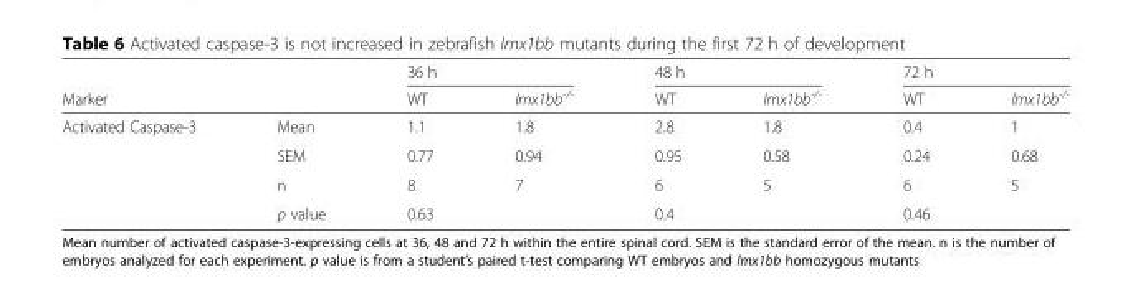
<table><thead><tr><td rowspan="2">Marker</td><td rowspan="2"></td><td colspan="2">36 h</td><td colspan="2">48 h</td><td colspan="2">72 h</td></tr><tr><td>WT</td><td>lmx1bb<sup>-/-</sup></td><td>WT</td><td>lmx1bb<sup>-/-</sup></td><td>WT</td><td>lmx1bb<sup>-/-</sup></td></tr></thead><tbody><tr><td rowspan="4">Activated Caspase-3</td><td>Mean</td><td>1.1</td><td>1.8</td><td>2.8</td><td>1.8</td><td>0.4</td><td>1</td></tr><tr><td>SEM</td><td>0.77</td><td>0.94</td><td>0.95</td><td>0.58</td><td>0.24</td><td>0.68</td></tr><tr><td>n</td><td>8</td><td>7</td><td>6</td><td>5</td><td>6</td><td>5</td></tr><tr><td>p value</td><td colspan="2">0.63</td><td colspan="2">0.4</td><td colspan="2">0.46</td></tr></tbody></table>